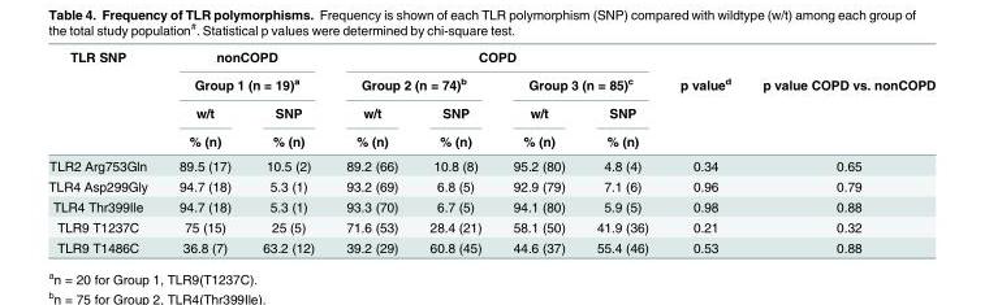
<table><thead><tr><td rowspan="4">TLR SNP</td><td rowspan="2" colspan="2">nonCOPD Group 1 (n = 19)<sup>a</sup></td><td colspan="4">COPD</td><td rowspan="4">p value<sup>d</sup></td><td rowspan="4">p value COPD vs. nonCOPD</td></tr><tr><td colspan="2">Group 2 (n = 74)<sup>b</sup></td><td colspan="2">Group 3 (n = 85)<sup>c</sup></td></tr><tr><td rowspan="2">w/t % (n)</td><td rowspan="2">SNP % (n)</td><td rowspan="2">w/t % (n)</td><td rowspan="2">SNP % (n)</td><td rowspan="2">w/t % (n)</td><td rowspan="2">SNP % (n)</td></tr><tr></tr></thead><tbody><tr><td>TLR2 Arg753Gln</td><td>89.5 (17)</td><td>10.5 (2)</td><td>89.2 (66)</td><td>10.8 (8)</td><td>95.2 (80)</td><td>4.8 (4)</td><td>0.34</td><td>0.65</td></tr><tr><td>TLR4 Asp299Gly</td><td>94.7 (18)</td><td>5.3 (1)</td><td>93.2 (69)</td><td>6.8 (5)</td><td>92.9 (79)</td><td>7.1 (6)</td><td>0.96</td><td>0.79</td></tr><tr><td>TLR4 Thr399Ile</td><td>94.7 (18)</td><td>5.3 (1)</td><td>93.3 (70)</td><td>6.7 (5)</td><td>94.1 (80)</td><td>5.9 (5)</td><td>0.98</td><td>0.88</td></tr><tr><td>TLR9 T1237C</td><td>75 (15)</td><td>25 (5)</td><td>71.6 (53)</td><td>28.4 (21)</td><td>58.1 (50)</td><td>41.9 (36)</td><td>0.21</td><td>0.32</td></tr><tr><td>TLR9 T1486C</td><td>36.8 (7)</td><td>63.2 (12)</td><td>39.2 (29)</td><td>60.8 (45)</td><td>44.6 (37)</td><td>55.4 (46)</td><td>0.53</td><td>0.88</td></tr></tbody></table>